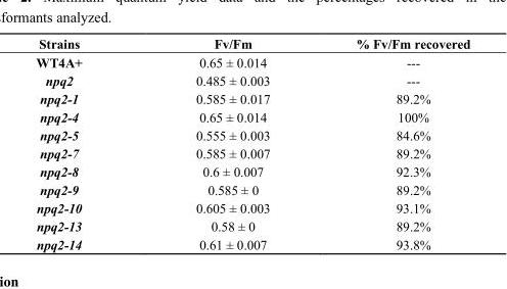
<table><thead><tr><td>Strains</td><td>Fv/Fm</td><td>% Fv/Fm recovered</td></tr></thead><tbody><tr><td>WT4A+</td><td>0.65 ± 0.014</td><td>---</td></tr><tr><td>npq2</td><td>0.485 ± 0.003</td><td>---</td></tr><tr><td>npq2-1</td><td>0.585 ± 0.017</td><td>89.2%</td></tr><tr><td>npq2-4</td><td>0.65 ± 0.014</td><td>100%</td></tr><tr><td>npq2-5</td><td>0.555 ± 0.003</td><td>84.6%</td></tr><tr><td>npq2-7</td><td>0.585 ± 0.007</td><td>89.2%</td></tr><tr><td>npq2-8</td><td>0.6 ± 0.007</td><td>92.3%</td></tr><tr><td>npq2-9</td><td>0.585 ± 0</td><td>89.2%</td></tr><tr><td>npq2-10</td><td>0.605 ± 0.003</td><td>93.1%</td></tr><tr><td>npq2-13</td><td>0.58 ± 0</td><td>89.2%</td></tr><tr><td>npq2-14</td><td>0.61 ± 0.007</td><td>93.8%</td></tr></tbody></table>